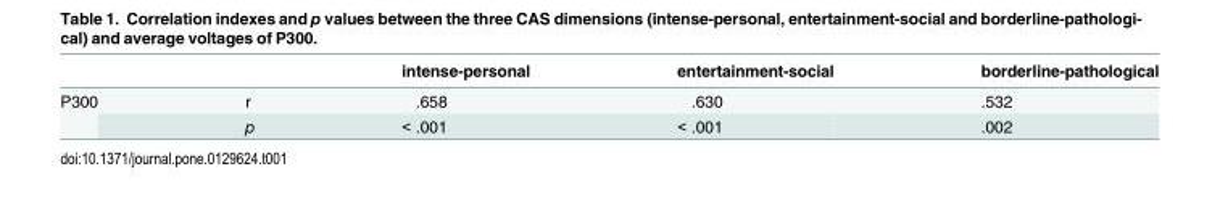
<table><thead><tr><td></td><td></td><td>intense-personal</td><td>entertainment-social</td><td>borderline-pathological</td></tr></thead><tbody><tr><td rowspan="2">P300</td><td>r</td><td>.658</td><td>.630</td><td>.532</td></tr><tr><td>p</td><td>&lt; .001</td><td>&lt; .001</td><td>.002</td></tr></tbody></table>